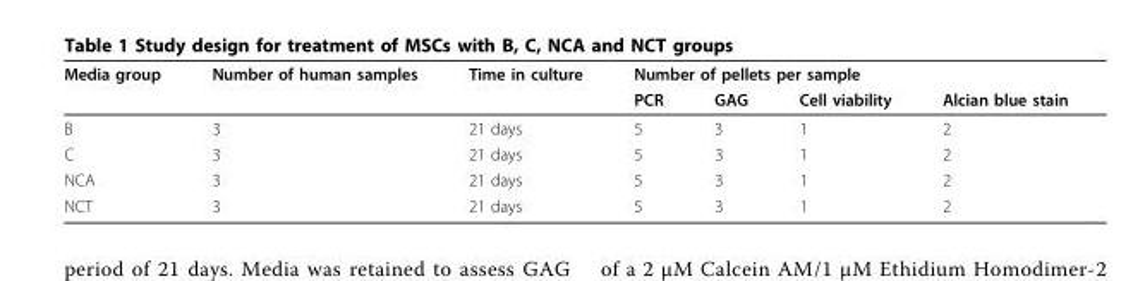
<table><thead><tr><td rowspan="2">Media group</td><td rowspan="2">Number of human samples</td><td rowspan="2">Time in culture</td><td colspan="4">Number of pellets per sample</td></tr><tr><td>PCR</td><td>GAG</td><td>Cell viability</td><td>Alcian blue stain</td></tr></thead><tbody><tr><td>B</td><td>3</td><td>21 days</td><td>5</td><td>3</td><td>1</td><td>2</td></tr><tr><td>C</td><td>3</td><td>21 days</td><td>5</td><td>3</td><td>1</td><td>2</td></tr><tr><td>NCA</td><td>3</td><td>21 days</td><td>5</td><td>3</td><td>1</td><td>2</td></tr><tr><td>NCT</td><td>3</td><td>21 days</td><td>5</td><td>3</td><td>1</td><td>2</td></tr></tbody></table>